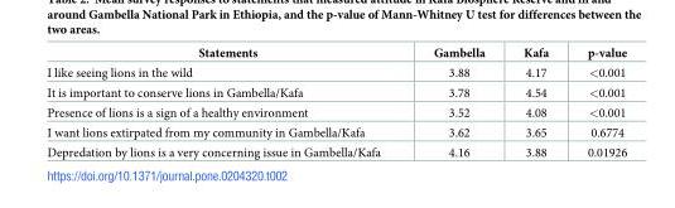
<table><thead><tr><td>Statements</td><td>Gambella</td><td>Kafa</td><td>p-value</td></tr></thead><tbody><tr><td>I like seeing lions in the wild</td><td>3.88</td><td>4.17</td><td>&lt;0.001</td></tr><tr><td>It is important to conserve lions in Gambella/Kafa</td><td>3.78</td><td>4.54</td><td>&lt;0.001</td></tr><tr><td>Presence of lions is a sign of a healthy environment</td><td>3.52</td><td>4.08</td><td>&lt;0.001</td></tr><tr><td>I want lions extirpated from my community in Gambella/Kafa</td><td>3.62</td><td>3.65</td><td>0.6774</td></tr><tr><td>Depredation by lions is a very concerning issue in Gambella/Kafa</td><td>4.16</td><td>3.88</td><td>0.01926</td></tr></tbody></table>